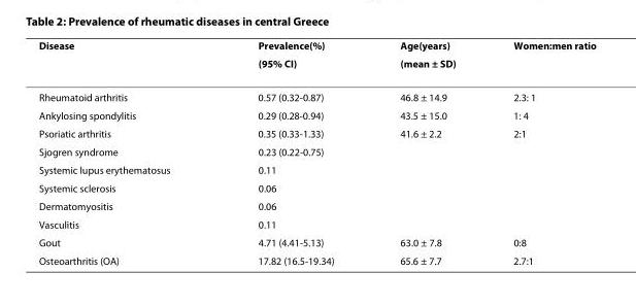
<table><thead><tr><td rowspan="2">Disease</td><td rowspan="2">Prevalence(%) (95% CI)</td><td rowspan="2">Age(years) (mean ± SD)</td><td rowspan="2">Women:men ratio</td></tr><tr></tr></thead><tbody><tr><td>Rheumatoid arthritis</td><td>0.57 (0.32-0.87)</td><td>46.8 ± 14.9</td><td>2.3: 1</td></tr><tr><td>Ankylosing spondylitis</td><td>0.29 (0.28-0.94)</td><td>43.5 ± 15.0</td><td>1: 4</td></tr><tr><td>Psoriatic arthritis</td><td>0.35 (0.33-1.33)</td><td>41.6 ± 2.2</td><td>2:1</td></tr><tr><td>Sjogren syndrome</td><td>0.23 (0.22-0.75)</td><td></td><td></td></tr><tr><td>Systemic lupus erythematosus</td><td>0.11</td><td></td><td></td></tr><tr><td>Systemic sclerosis</td><td>0.06</td><td></td><td></td></tr><tr><td>Dermatomyositis</td><td>0.06</td><td></td><td></td></tr><tr><td>Vasculitis</td><td>0.11</td><td></td><td></td></tr><tr><td>Gout</td><td>4.71 (4.41-5.13)</td><td>63.0 ± 7.8</td><td>0:8</td></tr><tr><td>Osteoarthritis (OA)</td><td>17.82 (16.5-19.34)</td><td>65.6 ± 7.7</td><td>2.7:1</td></tr></tbody></table>